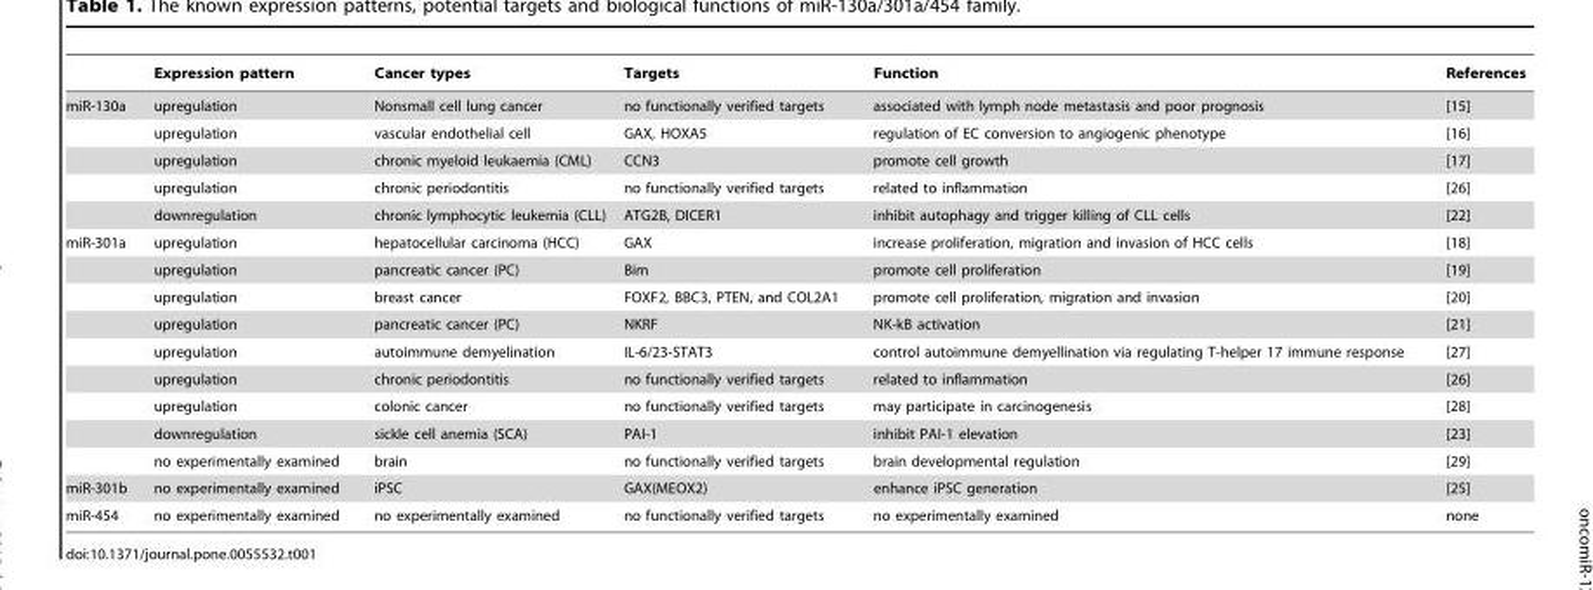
<table><thead><tr><td></td><td>Expression pattern</td><td>Cancer types</td><td>Targets</td><td>Function</td><td>References</td></tr></thead><tbody><tr><td rowspan="5">miR-130a</td><td>upregulation</td><td>Nonsmall cell lung cancer</td><td>no functionally verified targets</td><td>associated with lymph node metastasis and poor prognosis</td><td>[15]</td></tr><tr><td>upregulation</td><td>vascular endothelial cell</td><td>GAX, HOXA5</td><td>regulation of EC conversion to angiogenic phenotype</td><td>[16]</td></tr><tr><td>upregulation</td><td>chronic myeloid leukaemia (CML)</td><td>CCN3</td><td>promote cell growth</td><td>[17]</td></tr><tr><td>upregulation</td><td>chronic periodontitis</td><td>no functionally verified targets</td><td>related to inflammation</td><td>[26]</td></tr><tr><td>downregulation</td><td>chronic lymphocytic leukemia (CLL)</td><td>ATG2B, DICER1</td><td>inhibit autophagy and trigger killing of CLL cells</td><td>[22]</td></tr><tr><td rowspan="9">miR-301a</td><td>upregulation</td><td>hepatocellular carcinoma (HCC)</td><td>GAX</td><td>increase proliferation, migration and invasion of HCC cells</td><td>[18]</td></tr><tr><td>upregulation</td><td>pancreatic cancer (PC)</td><td>Bim</td><td>promote cell proliferation</td><td>[19]</td></tr><tr><td>upregulation</td><td>breast cancer</td><td>FOXF2, BBC3, PTEN, and COL2A1</td><td>promote cell proliferation, migration and invasion</td><td>[20]</td></tr><tr><td>upregulation</td><td>pancreatic cancer (PC)</td><td>NKRF</td><td>NK-kB activation</td><td>[21]</td></tr><tr><td>upregulation</td><td>autoimmune demyelination</td><td>IL-6/23-STAT3</td><td>control autoimmune demyellination via regulating T-helper 17 immune response</td><td>[27]</td></tr><tr><td>upregulation</td><td>chronic periodontitis</td><td>no functionally verified targets</td><td>related to inflammation</td><td>[26]</td></tr><tr><td>upregulation</td><td>colonic cancer</td><td>no functionally verified targets</td><td>may participate in carcinogenesis</td><td>[28]</td></tr><tr><td>downregulation</td><td>sickle cell anemia (SCA)</td><td>PAI-1</td><td>inhibit PAI-1 elevation</td><td>[23]</td></tr><tr><td>no experimentally examined</td><td>brain</td><td>no functionally verified targets</td><td>brain developmental regulation</td><td>[29]</td></tr><tr><td>miR-301b</td><td>no experimentally examined</td><td>iPSC</td><td>GAX(MEOX2)</td><td>enhance iPSC generation</td><td>[25]</td></tr><tr><td>miR-454</td><td>no experimentally examined</td><td>no experimentally examined</td><td>no functionally verified targets</td><td>no experimentally examined</td><td>none</td></tr></tbody></table>